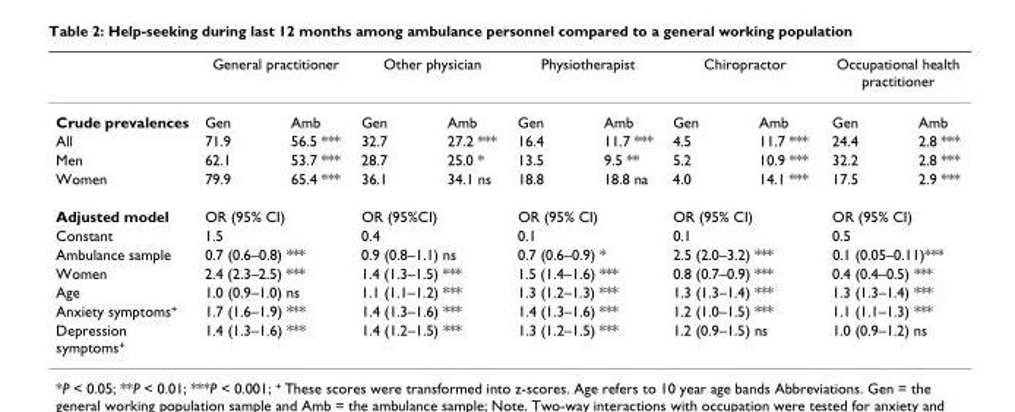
<table><thead><tr><td rowspan="2">Crude prevalences</td><td colspan="2">General practitioner</td><td colspan="2">Other physician</td><td colspan="2">Physiotherapist</td><td colspan="2">Chiropractor</td><td colspan="2">Occupational health practitioner</td></tr><tr><td>Gen</td><td>Amb</td><td>Gen</td><td>Amb</td><td>Gen</td><td>Amb</td><td>Gen</td><td>Amb</td><td>Gen</td><td>Amb</td></tr></thead><tbody><tr><td>All</td><td>71.9</td><td>56.5 ***</td><td>32.7</td><td>27.2 ***</td><td>16.4</td><td>11.7 ***</td><td>4.5</td><td>11.7 ***</td><td>24.4</td><td>2.8 ***</td></tr><tr><td>Men</td><td>62.1</td><td>53.7 ***</td><td>28.7</td><td>25.0 *</td><td>13.5</td><td>9.5 **</td><td>5.2</td><td>10.9 ***</td><td>32.2</td><td>2.8 ***</td></tr><tr><td>Women</td><td>79.9</td><td>65.4 ***</td><td>36.1</td><td>34.1 ns</td><td>18.8</td><td>18.8 na</td><td>4.0</td><td>14.1 ***</td><td>17.5</td><td>2.9 ***</td></tr><tr><td>Adjusted model</td><td colspan="2">OR (95% CI)</td><td colspan="2">OR (95%CI)</td><td colspan="2">OR (95% CI)</td><td colspan="2">OR (95% CI)</td><td colspan="2">OR (95% CI)</td></tr><tr><td>Constant</td><td>1.5</td><td></td><td>0.4</td><td></td><td>0.1</td><td></td><td>0.1</td><td></td><td>0.5</td><td></td></tr><tr><td>Ambulance sample</td><td colspan="2">0.7 (0.6–0.8) ***</td><td colspan="2">0.9 (0.8–1.1) ns</td><td colspan="2">0.7 (0.6–0.9) *</td><td colspan="2">2.5 (2.0–3.2) ***</td><td colspan="2">0.1 (0.05–0.11)***</td></tr><tr><td>Women</td><td colspan="2">2.4 (2.3–2.5) ***</td><td colspan="2">1.4 (1.3–1.5) ***</td><td colspan="2">1.5 (1.4–1.6) ***</td><td colspan="2">0.8 (0.7–0.9) ***</td><td colspan="2">0.4 (0.4–0.5) ***</td></tr><tr><td>Age</td><td colspan="2">1.0 (0.9–1.0) ns</td><td colspan="2">1.1 (1.1–1.2) ***</td><td colspan="2">1.3 (1.2–1.3) ***</td><td colspan="2">1.3 (1.3–1.4) ***</td><td colspan="2">1.3 (1.3–1.4) ***</td></tr><tr><td>Anxiety symptoms<sup>+</sup></td><td colspan="2">1.7 (1.6–1.9) ***</td><td colspan="2">1.4 (1.3–1.6) ***</td><td colspan="2">1.4 (1.3–1.6) ***</td><td colspan="2">1.2 (1.0–1.5) ***</td><td colspan="2">1.1 (1.1–1.3) ***</td></tr><tr><td>Depression symptoms<sup>+</sup></td><td colspan="2">1.4 (1.3–1.6) ***</td><td colspan="2">1.4 (1.2–1.5) ***</td><td colspan="2">1.3 (1.2–1.5) ***</td><td colspan="2">1.2 (0.9–1.5) ns</td><td colspan="2">1.0 (0.9–1.2) ns</td></tr></tbody></table>